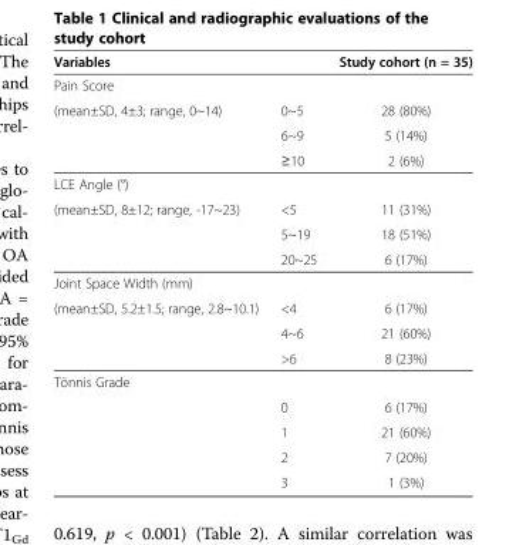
<table><thead><tr><td colspan="2">Variables</td><td rowspan="2">Study cohort (n = 35)</td></tr><tr><td>Pain Score</td><td></td></tr></thead><tbody><tr><td rowspan="3">(mean±SD, 4±3; range, 0~14)</td><td>0~5</td><td>28 (80%)</td></tr><tr><td>6~9</td><td>5 (14%)</td></tr><tr><td>≥10</td><td>2 (6%)</td></tr><tr><td colspan="3">LCE Angle (°)</td></tr><tr><td rowspan="3">(mean±SD, 8±12; range, -17~23)</td><td>&lt;5</td><td>11 (31%)</td></tr><tr><td>5~19</td><td>18 (51%)</td></tr><tr><td>20~25</td><td>6 (17%)</td></tr><tr><td colspan="3">Joint Space Width (mm)</td></tr><tr><td rowspan="3">(mean±SD, 5.2±1.5; range, 2.8~10.1)</td><td>&lt;4</td><td>6 (17%)</td></tr><tr><td>4~6</td><td>21 (60%)</td></tr><tr><td>&gt;6</td><td>8 (23%)</td></tr><tr><td colspan="3">Tönnis Grade</td></tr><tr><td></td><td>0</td><td>6 (17%)</td></tr><tr><td></td><td>1</td><td>21 (60%)</td></tr><tr><td></td><td>2</td><td>7 (20%)</td></tr><tr><td></td><td>3</td><td>1 (3%)</td></tr></tbody></table>